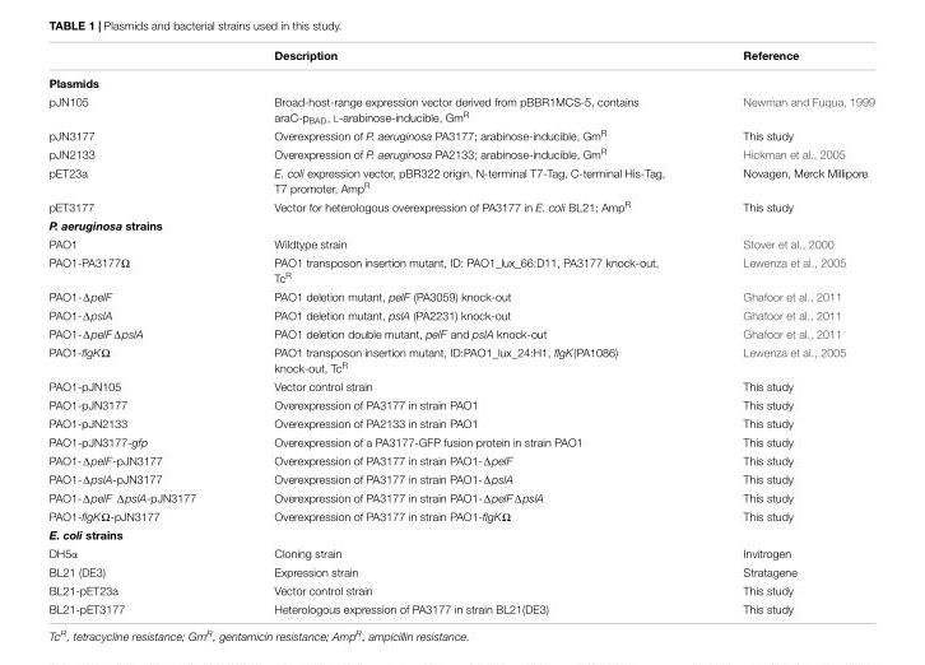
<table><thead><tr><td></td><td>Description</td><td>Reference</td></tr></thead><tbody><tr><td colspan="3">Plasmids</td></tr><tr><td>pJN105</td><td>Broad-host-range expression vector derived from pBBR1MCS-5, contains araC-p<sub>BAD</sub>, L-arabinose-inducible, Gm<sup>R</sup></td><td>Newman and Fuqua, 1999</td></tr><tr><td>pJN3177</td><td>Overexpression of P. aeruginosa PA3177; arabinose-inducible, Gm<sup>R</sup></td><td>This study</td></tr><tr><td>pJN2133</td><td>Overexpression of P. aeruginosa PA2133; arabinose-inducible, Gm<sup>R</sup></td><td>Hickman et al., 2005</td></tr><tr><td>pET23a</td><td>E. coli expression vector, pBR322 origin, N-terminal T7-Tag, C-terminal His-Tag, T7 promoter, Amp<sup>R</sup></td><td>Novagen, Merck Millipore</td></tr><tr><td>pET3177</td><td>Vector for heterologous overexpression of PA3177 in E. coli BL21; Amp<sup>R</sup></td><td>This study</td></tr><tr><td colspan="3">P. aeruginosa strains</td></tr><tr><td>PAO1</td><td>Wildtype strain</td><td>Stover et al., 2000</td></tr><tr><td>PAO1-PA3177Ω</td><td>PAO1 transposon insertion mutant, ID: PAO1_lux_66:D11, PA3177 knock-out, Tc<sup>R</sup></td><td>Lewenza et al., 2005</td></tr><tr><td>PAO1-ΔpelF</td><td>PAO1 deletion mutant, pelF (PA3059) knock-out</td><td>Ghafoor et al., 2011</td></tr><tr><td>PAO1-ΔpslA</td><td>PAO1 deletion mutant, pslA (PA2231) knock-out</td><td>Ghafoor et al., 2011</td></tr><tr><td>PAO1-ΔpelFΔpslA</td><td>PAO1 deletion double mutant, pelF and pslA knock-out</td><td>Ghafoor et al., 2011</td></tr><tr><td>PAO1-flgKΩ</td><td>PAO1 transposon insertion mutant, ID:PAO1_lux_24:H1, flgK(PA1086) knock-out, Tc<sup>R</sup></td><td>Lewenza et al., 2005</td></tr><tr><td>PAO1-pJN105</td><td>Vector control strain</td><td>This study</td></tr><tr><td>PAO1-pJN3177</td><td>Overexpression of PA3177 in strain PAO1</td><td>This study</td></tr><tr><td>PAO1-pJN2133</td><td>Overexpression of PA2133 in strain PAO1</td><td>This study</td></tr><tr><td>PAO1-pJN3177-gfp</td><td>Overexpression of a PA3177-GFP fusion protein in strain PAO1</td><td>This study</td></tr><tr><td>PAO1-ΔpelF-pJN3177</td><td>Overexpression of PA3177 in strain PAO1-ΔpelF</td><td>This study</td></tr><tr><td>PAO1-ΔpslA-pJN3177</td><td>Overexpression of PA3177 in strain PAO1-ΔpslA</td><td>This study</td></tr><tr><td>PAO1-ΔpelF ΔpslA-pJN3177</td><td>Overexpression of PA3177 in strain PAO1-ΔpelFΔpslA</td><td>This study</td></tr><tr><td>PAO1-flgKΩ-pJN3177</td><td>Overexpression of PA3177 in strain PAO1-flgKΩ</td><td>This study</td></tr><tr><td colspan="3">E. coli strains</td></tr><tr><td>DH5α</td><td>Cloning strain</td><td>Invitrogen</td></tr><tr><td>BL21 (DE3)</td><td>Expression strain</td><td>Stratagene</td></tr><tr><td>BL21-pET23a</td><td>Vector control strain</td><td>This study</td></tr><tr><td>BL21-pET3177</td><td>Heterologous expression of PA3177 in strain BL21(DE3)</td><td>This study</td></tr></tbody></table>